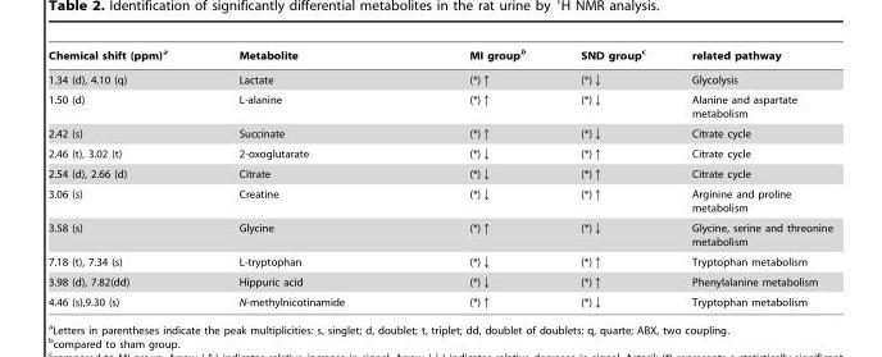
<table><thead><tr><td>Chemical shift (ppm)<sup>a</sup></td><td>Metabolite</td><td>MI group<sup>b</sup></td><td>SND group<sup>c</sup></td><td>related pathway</td></tr></thead><tbody><tr><td>1.34 (d), 4.10 (q)</td><td>Lactate</td><td>(*)↑</td><td>(*)↓</td><td>Glycolysis</td></tr><tr><td>1.50 (d)</td><td>L-alanine</td><td>(*)↑</td><td>(*)↓</td><td>Alanine and aspartate metabolism</td></tr><tr><td>2.42 (s)</td><td>Succinate</td><td>(*)↑</td><td>(*)↓</td><td>Citrate cycle</td></tr><tr><td>2.46 (t), 3.02 (t)</td><td>2-oxoglutarate</td><td>(*)↓</td><td>(*)↑</td><td>Citrate cycle</td></tr><tr><td>2.54 (d), 2.66 (d)</td><td>Citrate</td><td>(*)↓</td><td>(*)↑</td><td>Citrate cycle</td></tr><tr><td>3.06 (s)</td><td>Creatine</td><td>(*)↓</td><td>(*)↑</td><td>Arginine and proline metabolism</td></tr><tr><td>3.58 (s)</td><td>Glycine</td><td>(*)↑</td><td>(*)↓</td><td>Glycine, serine and threonine metabolism</td></tr><tr><td>7.18 (t), 7.34 (s)</td><td>L-tryptophan</td><td>(*)↓</td><td>(*)↑</td><td>Tryptophan metabolism</td></tr><tr><td>3.98 (d), 7.82(dd)</td><td>Hippuric acid</td><td>(*)↓</td><td>(*)↑</td><td>Phenylalanine metabolism</td></tr><tr><td>4.46 (s),9.30 (s)</td><td>N-methylnicotinamide</td><td>(*)↑</td><td>(*)↓</td><td>Tryptophan metabolism</td></tr></tbody></table>